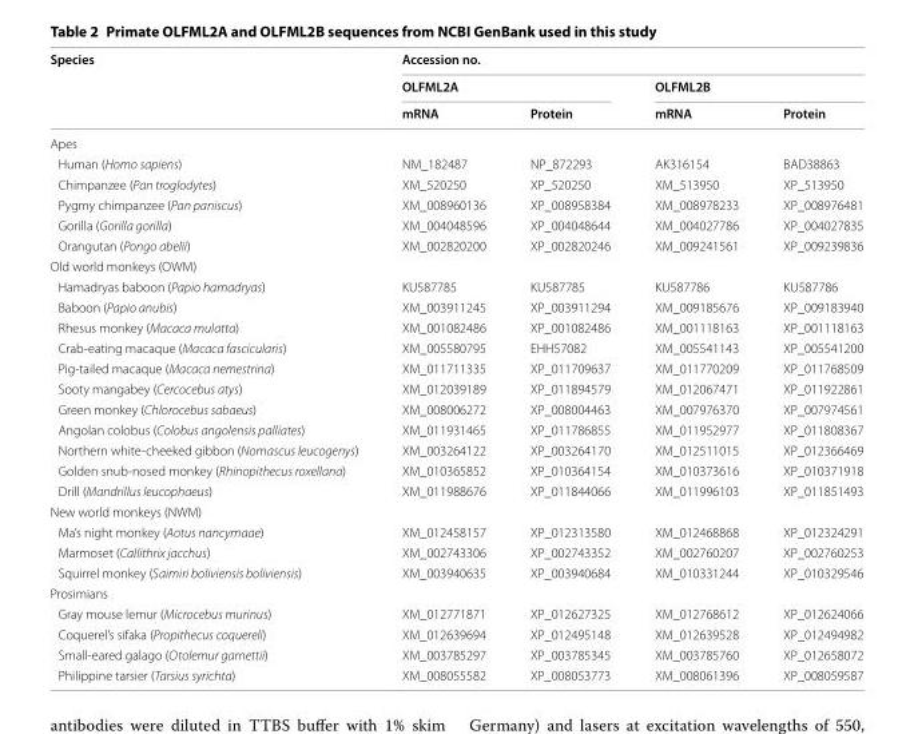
<table><thead><tr><td rowspan="3">Species</td><td colspan="4">Accession no.</td></tr><tr><td colspan="2">OLFML2A</td><td colspan="2">OLFML2B</td></tr><tr><td>mRNA</td><td>Protein</td><td>mRNA</td><td>Protein</td></tr></thead><tbody><tr><td colspan="5">Apes</td></tr><tr><td>Human (Homo sapiens)</td><td>NM_182487</td><td>NP_872293</td><td>AK316154</td><td>BAD38863</td></tr><tr><td>Chimpanzee (Pan troglodytes)</td><td>XM_520250</td><td>XP_520250</td><td>XM_513950</td><td>XP_513950</td></tr><tr><td>Pygmy chimpanzee (Pan paniscus)</td><td>XM_008960136</td><td>XP_008958384</td><td>XM_008978233</td><td>XP_008976481</td></tr><tr><td>Gorilla (Gorilla gorilla)</td><td>XM_004048596</td><td>XP_004048644</td><td>XM_004027786</td><td>XP_004027835</td></tr><tr><td>Orangutan (Pongo abelii)</td><td>XM_002820200</td><td>XP_002820246</td><td>XM_009241561</td><td>XP_009239836</td></tr><tr><td colspan="5">Old world monkeys (OWM)</td></tr><tr><td>Hamadryas baboon (Papio hamadryas)</td><td>KU587785</td><td>KU587785</td><td>KU587786</td><td>KU587786</td></tr><tr><td>Baboon (Papio anubis)</td><td>XM_003911245</td><td>XP_003911294</td><td>XM_009185676</td><td>XP_009183940</td></tr><tr><td>Rhesus monkey (Macaca mulatta)</td><td>XM_001082486</td><td>XP_001082486</td><td>XM_001118163</td><td>XP_001118163</td></tr><tr><td>Crab‑eating macaque (Macaca fascicularis)</td><td>XM_005580795</td><td>EHH57082</td><td>XM_005541143</td><td>XP_005541200</td></tr><tr><td>Pig‑tailed macaque (Macaca nemestrina)</td><td>XM_011711335</td><td>XP_011709637</td><td>XM_011770209</td><td>XP_011768509</td></tr><tr><td>Sooty mangabey (Cercocebus atys)</td><td>XM_012039189</td><td>XP_011894579</td><td>XM_012067471</td><td>XP_011922861</td></tr><tr><td>Green monkey (Chlorocebus sabaeus)</td><td>XM_008006272</td><td>XP_008004463</td><td>XM_007976370</td><td>XP_007974561</td></tr><tr><td>Angolan colobus (Colobus angolensis palliates)</td><td>XM_011931465</td><td>XP_011786855</td><td>XM_011952977</td><td>XP_011808367</td></tr><tr><td>Northern white‑cheeked gibbon (Nomascus leucogenys)</td><td>XM_003264122</td><td>XP_003264170</td><td>XM_012511015</td><td>XP_012366469</td></tr><tr><td>Golden snub‑nosed monkey (Rhinopithecus roxellana)</td><td>XM_010365852</td><td>XP_010364154</td><td>XM_010373616</td><td>XP_010371918</td></tr><tr><td>Drill (Mandrillus leucophaeus)</td><td>XM_011988676</td><td>XP_011844066</td><td>XM_011996103</td><td>XP_011851493</td></tr><tr><td colspan="5">New world monkeys (NWM)</td></tr><tr><td>Ma’s night monkey (Aotus nancymaae)</td><td>XM_012458157</td><td>XP_012313580</td><td>XM_012468868</td><td>XP_012324291</td></tr><tr><td>Marmoset (Callithrix jacchus)</td><td>XM_002743306</td><td>XP_002743352</td><td>XM_002760207</td><td>XP_002760253</td></tr><tr><td>Squirrel monkey (Saimiri boliviensis boliviensis)</td><td>XM_003940635</td><td>XP_003940684</td><td>XM_010331244</td><td>XP_010329546</td></tr><tr><td colspan="5">Prosimians</td></tr><tr><td>Gray mouse lemur (Microcebus murinus)</td><td>XM_012771871</td><td>XP_012627325</td><td>XM_012768612</td><td>XP_012624066</td></tr><tr><td>Coquerel’s sifaka (Propithecus coquereli)</td><td>XM_012639694</td><td>XP_012495148</td><td>XM_012639528</td><td>XP_012494982</td></tr><tr><td>Small‑eared galago (Otolemur garnettii)</td><td>XM_003785297</td><td>XP_003785345</td><td>XM_003785760</td><td>XP_012658072</td></tr><tr><td>Philippine tarsier (Tarsius syrichta)</td><td>XM_008055582</td><td>XP_008053773</td><td>XM_008061396</td><td>XP_008059587</td></tr></tbody></table>